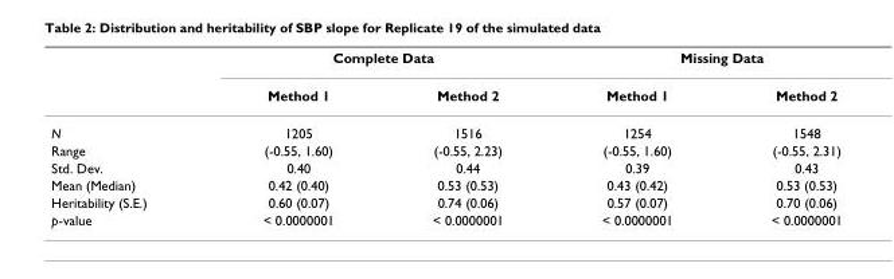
<table><thead><tr><td rowspan="2"></td><td colspan="2">Complete Data</td><td colspan="2">Missing Data</td></tr><tr><td>Method 1</td><td>Method 2</td><td>Method 1</td><td>Method 2</td></tr></thead><tbody><tr><td>N</td><td>1205</td><td>1516</td><td>1254</td><td>1548</td></tr><tr><td>Range</td><td>(-0.55, 1.60)</td><td>(-0.55, 2.23)</td><td>(-0.55, 1.60)</td><td>(-0.55, 2.31)</td></tr><tr><td>Std. Dev.</td><td>0.40</td><td>0.44</td><td>0.39</td><td>0.43</td></tr><tr><td>Mean (Median)</td><td>0.42 (0.40)</td><td>0.53 (0.53)</td><td>0.43 (0.42)</td><td>0.53 (0.53)</td></tr><tr><td>Heritability (S.E.)</td><td>0.60 (0.07)</td><td>0.74 (0.06)</td><td>0.57 (0.07)</td><td>0.70 (0.06)</td></tr><tr><td>p-value</td><td>&lt; 0.0000001</td><td>&lt; 0.0000001</td><td>&lt; 0.0000001</td><td>&lt; 0.0000001</td></tr></tbody></table>